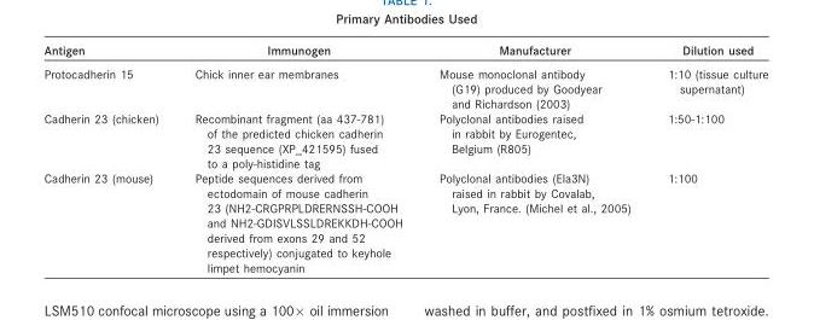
<table><thead><tr><td>Antigen</td><td>Immunogen</td><td>Manufacturer</td><td>Dilution used</td></tr></thead><tbody><tr><td>Protocadherin 15</td><td>Chick inner ear membranes</td><td>Mouse monoclonal antibody (G19) produced by Goodyear and Richardson (2003)</td><td>1:10 (tissue culture supernatant)</td></tr><tr><td>Cadherin 23 (chicken)</td><td>Recombinant fragment (aa 437-781) of the predicted chicken cadherin 23 sequence (XP_421595) fused to a poly-histidine tag</td><td>Polyclonal antibodies raised in rabbit by Eurogentec, Belgium (R805)</td><td>1:50-1:100</td></tr><tr><td>Cadherin 23 (mouse)</td><td>Peptide sequences derived from ectodomain of mouse cadherin 23 (NH2-CRGPRPLDRERNSSH-COOH and NH2-GDISVLSSLDREKKDH-COOH derived from exons 29 and 52 respectively) conjugated to keyhole limpet hemocyanin</td><td>Polyclonal antibodies (Ela3N) raised in rabbit by Covalab, Lyon, France. (Michel et al., 2005)</td><td>1:100</td></tr></tbody></table>